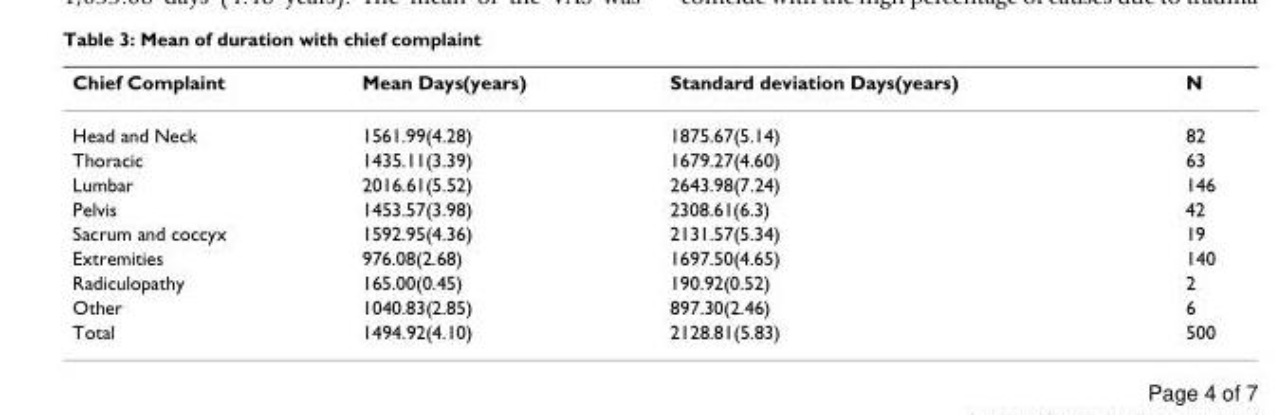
<table><thead><tr><td>Chief Complaint</td><td>Mean Days(years)</td><td>Standard deviation Days(years)</td><td>N</td></tr></thead><tbody><tr><td>Head and Neck</td><td>1561.99(4.28)</td><td>1875.67(5.14)</td><td>82</td></tr><tr><td>Thoracic</td><td>1435.11(3.39)</td><td>1679.27(4.60)</td><td>63</td></tr><tr><td>Lumbar</td><td>2016.61(5.52)</td><td>2643.98(7.24)</td><td>146</td></tr><tr><td>Pelvis</td><td>1453.57(3.98)</td><td>2308.61(6.3)</td><td>42</td></tr><tr><td>Sacrum and coccyx</td><td>1592.95(4.36)</td><td>2131.57(5.34)</td><td>19</td></tr><tr><td>Extremities</td><td>976.08(2.68)</td><td>1697.50(4.65)</td><td>140</td></tr><tr><td>Radiculopathy</td><td>165.00(0.45)</td><td>190.92(0.52)</td><td>2</td></tr><tr><td>Other</td><td>1040.83(2.85)</td><td>897.30(2.46)</td><td>6</td></tr><tr><td>Total</td><td>1494.92(4.10)</td><td>2128.81(5.83)</td><td>500</td></tr></tbody></table>